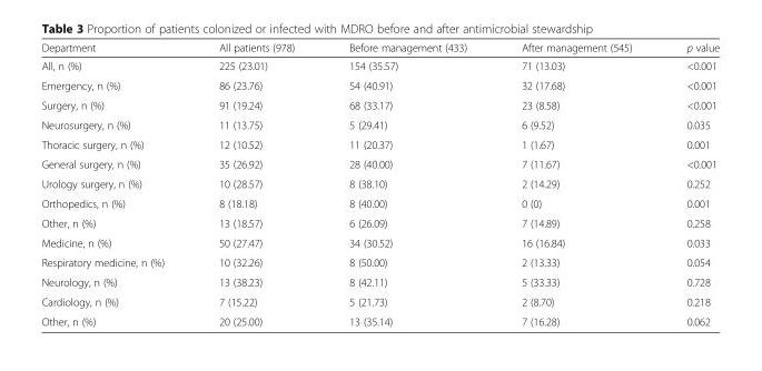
<table><thead><tr><td>Department</td><td>All patients (978)</td><td>Before management (433)</td><td>After management (545)</td><td>p value</td></tr></thead><tbody><tr><td>All, n (%)</td><td>225 (23.01)</td><td>154 (35.57)</td><td>71 (13.03)</td><td>&lt;0.001</td></tr><tr><td>Emergency, n (%)</td><td>86 (23.76)</td><td>54 (40.91)</td><td>32 (17.68)</td><td>&lt;0.001</td></tr><tr><td>Surgery, n (%)</td><td>91 (19.24)</td><td>68 (33.17)</td><td>23 (8.58)</td><td>&lt;0.001</td></tr><tr><td>Neurosurgery, n (%)</td><td>11 (13.75)</td><td>5 (29.41)</td><td>6 (9.52)</td><td>0.035</td></tr><tr><td>Thoracic surgery, n (%)</td><td>12 (10.52)</td><td>11 (20.37)</td><td>1 (1.67)</td><td>0.001</td></tr><tr><td>General surgery, n (%)</td><td>35 (26.92)</td><td>28 (40.00)</td><td>7 (11.67)</td><td>&lt;0.001</td></tr><tr><td>Urology surgery, n (%)</td><td>10 (28.57)</td><td>8 (38.10)</td><td>2 (14.29)</td><td>0.252</td></tr><tr><td>Orthopedics, n (%)</td><td>8 (18.18)</td><td>8 (40.00)</td><td>0 (0)</td><td>0.001</td></tr><tr><td>Other, n (%)</td><td>13 (18.57)</td><td>6 (26.09)</td><td>7 (14.89)</td><td>0.258</td></tr><tr><td>Medicine, n (%)</td><td>50 (27.47)</td><td>34 (30.52)</td><td>16 (16.84)</td><td>0.033</td></tr><tr><td>Respiratory medicine, n (%)</td><td>10 (32.26)</td><td>8 (50.00)</td><td>2 (13.33)</td><td>0.054</td></tr><tr><td>Neurology, n (%)</td><td>13 (38.23)</td><td>8 (42.11)</td><td>5 (33.33)</td><td>0.728</td></tr><tr><td>Cardiology, n (%)</td><td>7 (15.22)</td><td>5 (21.73)</td><td>2 (8.70)</td><td>0.218</td></tr><tr><td>Other, n (%)</td><td>20 (25.00)</td><td>13 (35.14)</td><td>7 (16.28)</td><td>0.062</td></tr></tbody></table>